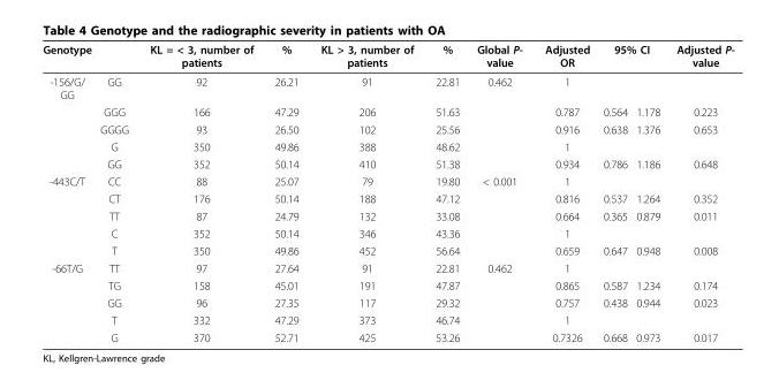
<table><thead><tr><td rowspan="2">Genotype -156/G/ GG</td><td rowspan="2">GG</td><td rowspan="2">KL = &lt; 3, number of patients 92</td><td rowspan="2">% 26.21</td><td rowspan="2">KL &gt; 3, number of patients 91</td><td rowspan="2">% 22.81</td><td rowspan="2">Global P- value 0.462</td><td rowspan="2">Adjusted OR 1</td><td colspan="2">95% CI</td><td rowspan="2">Adjusted P- value</td></tr><tr><td></td><td></td></tr></thead><tbody><tr><td></td><td>GGG</td><td>166</td><td>47.29</td><td>206</td><td>51.63</td><td></td><td>0.787</td><td>0.564</td><td>1.178</td><td>0.223</td></tr><tr><td></td><td>GGGG</td><td>93</td><td>26.50</td><td>102</td><td>25.56</td><td></td><td>0.916</td><td>0.638</td><td>1.376</td><td>0.653</td></tr><tr><td></td><td>G</td><td>350</td><td>49.86</td><td>388</td><td>48.62</td><td></td><td>1</td><td></td><td></td><td></td></tr><tr><td></td><td>GG</td><td>352</td><td>50.14</td><td>410</td><td>51.38</td><td></td><td>0.934</td><td>0.786</td><td>1.186</td><td>0.648</td></tr><tr><td rowspan="5">-443C/T</td><td>CC</td><td>88</td><td>25.07</td><td>79</td><td>19.80</td><td>&lt; 0.001</td><td>1</td><td></td><td></td><td></td></tr><tr><td>CT</td><td>176</td><td>50.14</td><td>188</td><td>47.12</td><td></td><td>0.816</td><td>0.537</td><td>1.264</td><td>0.352</td></tr><tr><td>TT</td><td>87</td><td>24.79</td><td>132</td><td>33.08</td><td></td><td>0.664</td><td>0.365</td><td>0.879</td><td>0.011</td></tr><tr><td>C</td><td>352</td><td>50.14</td><td>346</td><td>43.36</td><td></td><td>1</td><td></td><td></td><td></td></tr><tr><td>T</td><td>350</td><td>49.86</td><td>452</td><td>56.64</td><td></td><td>0.659</td><td>0.647</td><td>0.948</td><td>0.008</td></tr><tr><td rowspan="5">-66T/G</td><td>TT</td><td>97</td><td>27.64</td><td>91</td><td>22.81</td><td>0.462</td><td>1</td><td></td><td></td><td></td></tr><tr><td>TG</td><td>158</td><td>45.01</td><td>191</td><td>47.87</td><td></td><td>0.865</td><td>0.587</td><td>1.234</td><td>0.174</td></tr><tr><td>GG</td><td>96</td><td>27.35</td><td>117</td><td>29.32</td><td></td><td>0.757</td><td>0.438</td><td>0.944</td><td>0.023</td></tr><tr><td>T</td><td>332</td><td>47.29</td><td>373</td><td>46.74</td><td></td><td>1</td><td></td><td></td><td></td></tr><tr><td>G</td><td>370</td><td>52.71</td><td>425</td><td>53.26</td><td></td><td>0.7326</td><td>0.668</td><td>0.973</td><td>0.017</td></tr></tbody></table>